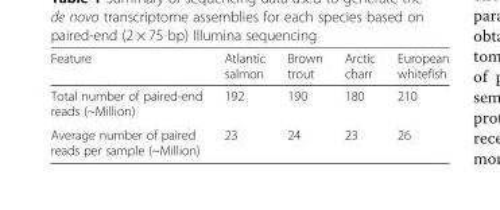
<table><thead><tr><td>Feature</td><td>Atlantic salmon</td><td>Brown trout</td><td>Arctic charr</td><td>European whitefish</td></tr></thead><tbody><tr><td>Total number of paired-end reads (~Million)</td><td>192</td><td>190</td><td>180</td><td>210</td></tr><tr><td>Average number of paired reads per sample (~Million)</td><td>23</td><td>24</td><td>23</td><td>26</td></tr></tbody></table>